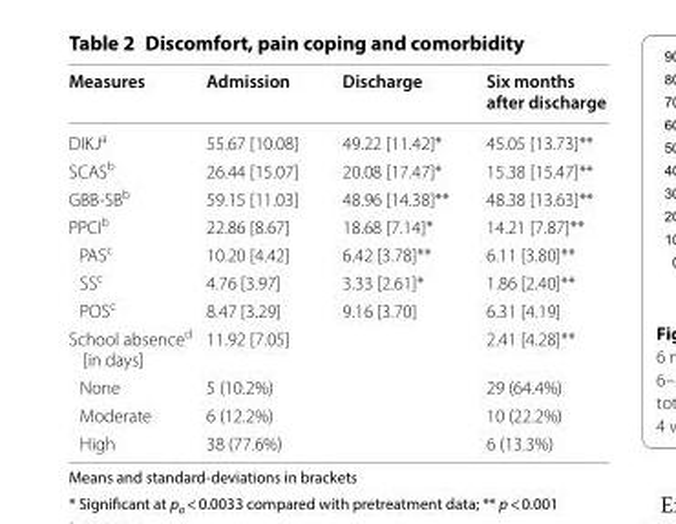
<table><thead><tr><td>Measures</td><td>Admission</td><td>Discharge</td><td>Six months after discharge</td></tr></thead><tbody><tr><td>DIKJ<sup>a</sup></td><td>55.67 [10.08]</td><td>49.22 [11.42]*</td><td>45.05 [13.73]**</td></tr><tr><td>SCAS<sup>b</sup></td><td>26.44 [15.07]</td><td>20.08 [17.47]*</td><td>15.38 [15.47]**</td></tr><tr><td>GBB‑SB<sup>b</sup></td><td>59.15 [11.03]</td><td>48.96 [14.38]**</td><td>48.38 [13.63]**</td></tr><tr><td>PPCI<sup>b</sup></td><td>22.86 [8.67]</td><td>18.68 [7.14]*</td><td>14.21 [7.87]**</td></tr><tr><td>PAS<sup>c</sup></td><td>10.20 [4.42]</td><td>6.42 [3.78]**</td><td>6.11 [3.80]**</td></tr><tr><td>SS<sup>c</sup></td><td>4.76 [3.97]</td><td>3.33 [2.61]*</td><td>1.86 [2.40]**</td></tr><tr><td>POS<sup>c</sup></td><td>8.47 [3.29]</td><td>9.16 [3.70]</td><td>6.31 [4.19]</td></tr><tr><td>School absence<sup>d</sup> [in days]</td><td>11.92 [7.05]</td><td></td><td>2.41 [4.28]**</td></tr><tr><td>None</td><td>5 (10.2%)</td><td></td><td>29 (64.4%)</td></tr><tr><td>Moderate</td><td>6 (12.2%)</td><td></td><td>10 (22.2%)</td></tr><tr><td>High</td><td>38 (77.6%)</td><td></td><td>6 (13.3%)</td></tr></tbody></table>